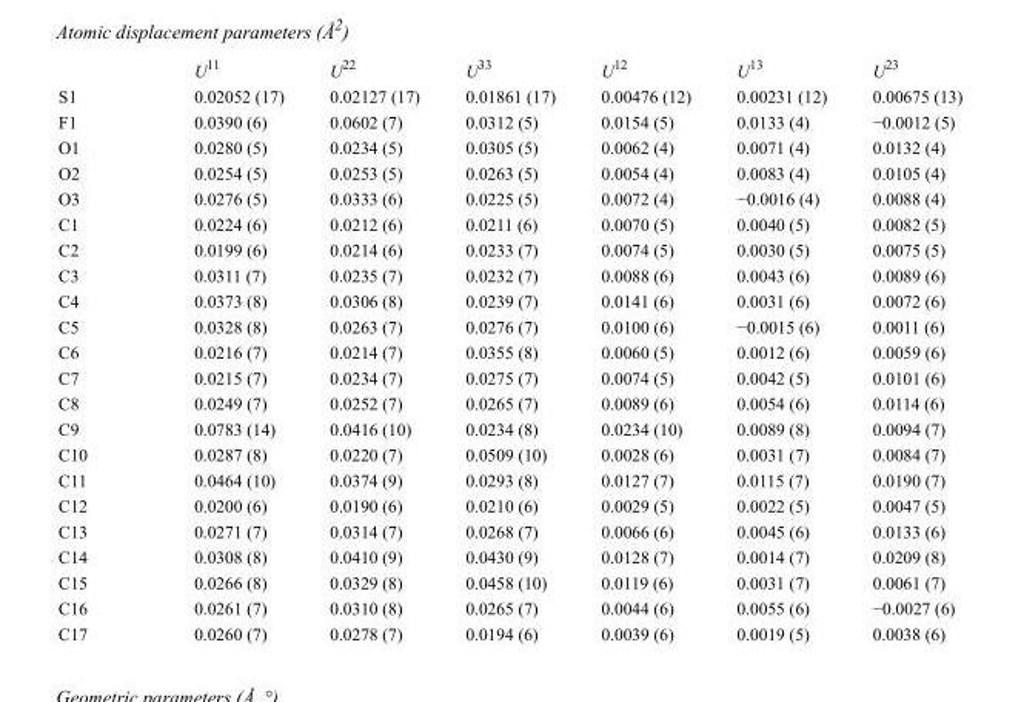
<table><thead><tr><td></td><td>U<sup>11</sup></td><td>U<sup>22</sup></td><td>U<sup>33</sup></td><td>U<sup>12</sup></td><td>U<sup>13</sup></td><td>U<sup>23</sup></td></tr></thead><tbody><tr><td>S1</td><td>0.02052 (17)</td><td>0.02127 (17)</td><td>0.01861 (17)</td><td>0.00476 (12)</td><td>0.00231 (12)</td><td>0.00675 (13)</td></tr><tr><td>F1</td><td>0.0390 (6)</td><td>0.0602 (7)</td><td>0.0312 (5)</td><td>0.0154 (5)</td><td>0.0133 (4)</td><td>−0.0012 (5)</td></tr><tr><td>O1</td><td>0.0280 (5)</td><td>0.0234 (5)</td><td>0.0305 (5)</td><td>0.0062 (4)</td><td>0.0071 (4)</td><td>0.0132 (4)</td></tr><tr><td>O2</td><td>0.0254 (5)</td><td>0.0253 (5)</td><td>0.0263 (5)</td><td>0.0054 (4)</td><td>0.0083 (4)</td><td>0.0105 (4)</td></tr><tr><td>O3</td><td>0.0276 (5)</td><td>0.0333 (6)</td><td>0.0225 (5)</td><td>0.0072 (4)</td><td>−0.0016 (4)</td><td>0.0088 (4)</td></tr><tr><td>C1</td><td>0.0224 (6)</td><td>0.0212 (6)</td><td>0.0211 (6)</td><td>0.0070 (5)</td><td>0.0040 (5)</td><td>0.0082 (5)</td></tr><tr><td>C2</td><td>0.0199 (6)</td><td>0.0214 (6)</td><td>0.0233 (7)</td><td>0.0074 (5)</td><td>0.0030 (5)</td><td>0.0075 (5)</td></tr><tr><td>C3</td><td>0.0311 (7)</td><td>0.0235 (7)</td><td>0.0232 (7)</td><td>0.0088 (6)</td><td>0.0043 (6)</td><td>0.0089 (6)</td></tr><tr><td>C4</td><td>0.0373 (8)</td><td>0.0306 (8)</td><td>0.0239 (7)</td><td>0.0141 (6)</td><td>0.0031 (6)</td><td>0.0072 (6)</td></tr><tr><td>C5</td><td>0.0328 (8)</td><td>0.0263 (7)</td><td>0.0276 (7)</td><td>0.0100 (6)</td><td>−0.0015 (6)</td><td>0.0011 (6)</td></tr><tr><td>C6</td><td>0.0216 (7)</td><td>0.0214 (7)</td><td>0.0355 (8)</td><td>0.0060 (5)</td><td>0.0012 (6)</td><td>0.0059 (6)</td></tr><tr><td>C7</td><td>0.0215 (7)</td><td>0.0234 (7)</td><td>0.0275 (7)</td><td>0.0074 (5)</td><td>0.0042 (5)</td><td>0.0101 (6)</td></tr><tr><td>C8</td><td>0.0249 (7)</td><td>0.0252 (7)</td><td>0.0265 (7)</td><td>0.0089 (6)</td><td>0.0054 (6)</td><td>0.0114 (6)</td></tr><tr><td>C9</td><td>0.0783 (14)</td><td>0.0416 (10)</td><td>0.0234 (8)</td><td>0.0234 (10)</td><td>0.0089 (8)</td><td>0.0094 (7)</td></tr><tr><td>C10</td><td>0.0287 (8)</td><td>0.0220 (7)</td><td>0.0509 (10)</td><td>0.0028 (6)</td><td>0.0031 (7)</td><td>0.0084 (7)</td></tr><tr><td>C11</td><td>0.0464 (10)</td><td>0.0374 (9)</td><td>0.0293 (8)</td><td>0.0127 (7)</td><td>0.0115 (7)</td><td>0.0190 (7)</td></tr><tr><td>C12</td><td>0.0200 (6)</td><td>0.0190 (6)</td><td>0.0210 (6)</td><td>0.0029 (5)</td><td>0.0022 (5)</td><td>0.0047 (5)</td></tr><tr><td>C13</td><td>0.0271 (7)</td><td>0.0314 (7)</td><td>0.0268 (7)</td><td>0.0066 (6)</td><td>0.0045 (6)</td><td>0.0133 (6)</td></tr><tr><td>C14</td><td>0.0308 (8)</td><td>0.0410 (9)</td><td>0.0430 (9)</td><td>0.0128 (7)</td><td>0.0014 (7)</td><td>0.0209 (8)</td></tr><tr><td>C15</td><td>0.0266 (8)</td><td>0.0329 (8)</td><td>0.0458 (10)</td><td>0.0119 (6)</td><td>0.0031 (7)</td><td>0.0061 (7)</td></tr><tr><td>C16</td><td>0.0261 (7)</td><td>0.0310 (8)</td><td>0.0265 (7)</td><td>0.0044 (6)</td><td>0.0055 (6)</td><td>−0.0027 (6)</td></tr><tr><td>C17</td><td>0.0260 (7)</td><td>0.0278 (7)</td><td>0.0194 (6)</td><td>0.0039 (6)</td><td>0.0019 (5)</td><td>0.0038 (6)</td></tr></tbody></table>